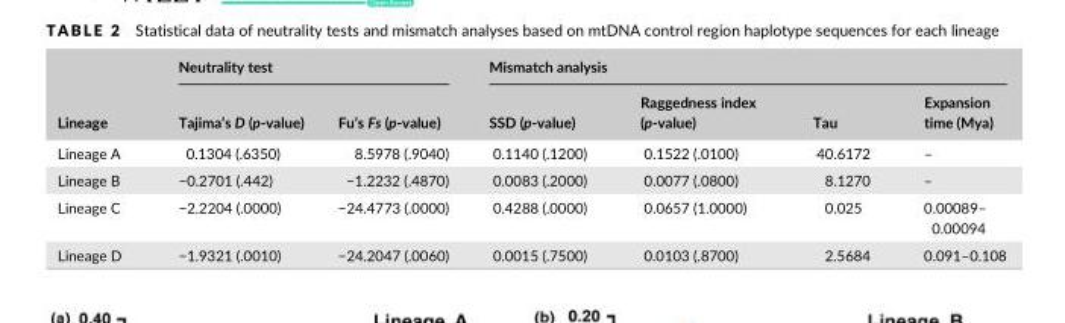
<table><thead><tr><td rowspan="2">Lineage</td><td colspan="2">Neutrality test</td><td colspan="4">Mismatch analysis</td></tr><tr><td>Tajima’s D (p- value)</td><td>Fu’s Fs (p- value)</td><td>SSD (p- value)</td><td>Raggedness index (p- value)</td><td>Tau</td><td>Expansion time (Mya)</td></tr></thead><tbody><tr><td>Lineage A</td><td>0.1304 (.6350)</td><td>8.5978 (.9040)</td><td>0.1140 (.1200)</td><td>0.1522 (.0100)</td><td>40.6172</td><td>–</td></tr><tr><td>Lineage B</td><td>−0.2701 (.442)</td><td>−1.2232 (.4870)</td><td>0.0083 (.2000)</td><td>0.0077 (.0800)</td><td>8.1270</td><td>–</td></tr><tr><td>Lineage C</td><td>−2.2204 (.0000)</td><td>−24.4773 (.0000)</td><td>0.4288 (.0000)</td><td>0.0657 (1.0000)</td><td>0.025</td><td>0.00089– 0.00094</td></tr><tr><td>Lineage D</td><td>−1.9321 (.0010)</td><td>−24.2047 (.0060)</td><td>0.0015 (.7500)</td><td>0.0103 (.8700)</td><td>2.5684</td><td>0.091–0.108</td></tr></tbody></table>